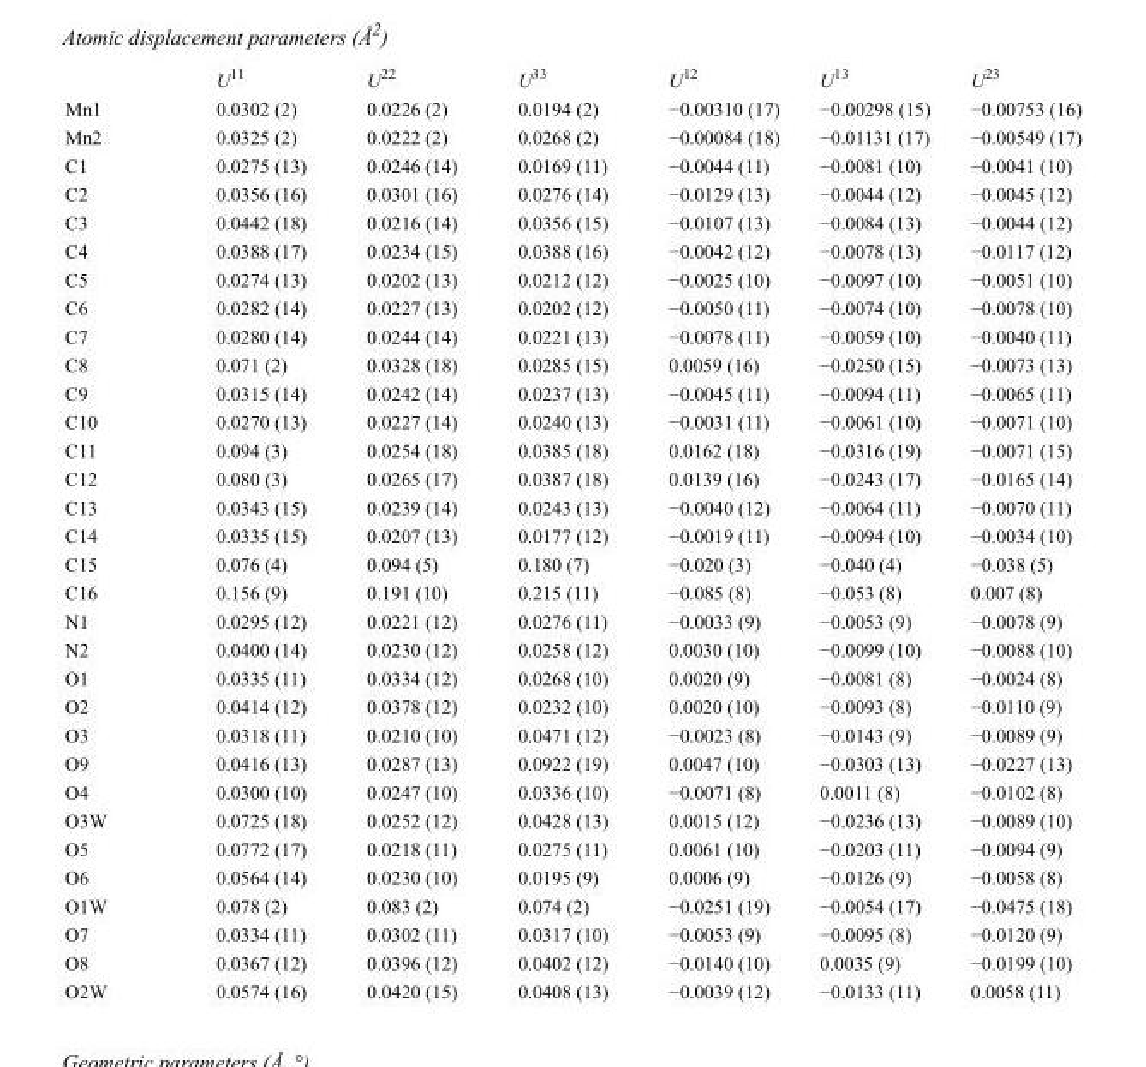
<table><thead><tr><td></td><td>U<sup>11</sup></td><td>U<sup>22</sup></td><td>U<sup>33</sup></td><td>U<sup>12</sup></td><td>U<sup>13</sup></td><td>U<sup>23</sup></td></tr></thead><tbody><tr><td>Mn1</td><td>0.0302 (2)</td><td>0.0226 (2)</td><td>0.0194 (2)</td><td>−0.00310 (17)</td><td>−0.00298 (15)</td><td>−0.00753 (16)</td></tr><tr><td>Mn2</td><td>0.0325 (2)</td><td>0.0222 (2)</td><td>0.0268 (2)</td><td>−0.00084 (18)</td><td>−0.01131 (17)</td><td>−0.00549 (17)</td></tr><tr><td>C1</td><td>0.0275 (13)</td><td>0.0246 (14)</td><td>0.0169 (11)</td><td>−0.0044 (11)</td><td>−0.0081 (10)</td><td>−0.0041 (10)</td></tr><tr><td>C2</td><td>0.0356 (16)</td><td>0.0301 (16)</td><td>0.0276 (14)</td><td>−0.0129 (13)</td><td>−0.0044 (12)</td><td>−0.0045 (12)</td></tr><tr><td>C3</td><td>0.0442 (18)</td><td>0.0216 (14)</td><td>0.0356 (15)</td><td>−0.0107 (13)</td><td>−0.0084 (13)</td><td>−0.0044 (12)</td></tr><tr><td>C4</td><td>0.0388 (17)</td><td>0.0234 (15)</td><td>0.0388 (16)</td><td>−0.0042 (12)</td><td>−0.0078 (13)</td><td>−0.0117 (12)</td></tr><tr><td>C5</td><td>0.0274 (13)</td><td>0.0202 (13)</td><td>0.0212 (12)</td><td>−0.0025 (10)</td><td>−0.0097 (10)</td><td>−0.0051 (10)</td></tr><tr><td>C6</td><td>0.0282 (14)</td><td>0.0227 (13)</td><td>0.0202 (12)</td><td>−0.0050 (11)</td><td>−0.0074 (10)</td><td>−0.0078 (10)</td></tr><tr><td>C7</td><td>0.0280 (14)</td><td>0.0244 (14)</td><td>0.0221 (13)</td><td>−0.0078 (11)</td><td>−0.0059 (10)</td><td>−0.0040 (11)</td></tr><tr><td>C8</td><td>0.071 (2)</td><td>0.0328 (18)</td><td>0.0285 (15)</td><td>0.0059 (16)</td><td>−0.0250 (15)</td><td>−0.0073 (13)</td></tr><tr><td>C9</td><td>0.0315 (14)</td><td>0.0242 (14)</td><td>0.0237 (13)</td><td>−0.0045 (11)</td><td>−0.0094 (11)</td><td>−0.0065 (11)</td></tr><tr><td>C10</td><td>0.0270 (13)</td><td>0.0227 (14)</td><td>0.0240 (13)</td><td>−0.0031 (11)</td><td>−0.0061 (10)</td><td>−0.0071 (10)</td></tr><tr><td>C11</td><td>0.094 (3)</td><td>0.0254 (18)</td><td>0.0385 (18)</td><td>0.0162 (18)</td><td>−0.0316 (19)</td><td>−0.0071 (15)</td></tr><tr><td>C12</td><td>0.080 (3)</td><td>0.0265 (17)</td><td>0.0387 (18)</td><td>0.0139 (16)</td><td>−0.0243 (17)</td><td>−0.0165 (14)</td></tr><tr><td>C13</td><td>0.0343 (15)</td><td>0.0239 (14)</td><td>0.0243 (13)</td><td>−0.0040 (12)</td><td>−0.0064 (11)</td><td>−0.0070 (11)</td></tr><tr><td>C14</td><td>0.0335 (15)</td><td>0.0207 (13)</td><td>0.0177 (12)</td><td>−0.0019 (11)</td><td>−0.0094 (10)</td><td>−0.0034 (10)</td></tr><tr><td>C15</td><td>0.076 (4)</td><td>0.094 (5)</td><td>0.180 (7)</td><td>−0.020 (3)</td><td>−0.040 (4)</td><td>−0.038 (5)</td></tr><tr><td>C16</td><td>0.156 (9)</td><td>0.191 (10)</td><td>0.215 (11)</td><td>−0.085 (8)</td><td>−0.053 (8)</td><td>0.007 (8)</td></tr><tr><td>N1</td><td>0.0295 (12)</td><td>0.0221 (12)</td><td>0.0276 (11)</td><td>−0.0033 (9)</td><td>−0.0053 (9)</td><td>−0.0078 (9)</td></tr><tr><td>N2</td><td>0.0400 (14)</td><td>0.0230 (12)</td><td>0.0258 (12)</td><td>0.0030 (10)</td><td>−0.0099 (10)</td><td>−0.0088 (10)</td></tr><tr><td>O1</td><td>0.0335 (11)</td><td>0.0334 (12)</td><td>0.0268 (10)</td><td>0.0020 (9)</td><td>−0.0081 (8)</td><td>−0.0024 (8)</td></tr><tr><td>O2</td><td>0.0414 (12)</td><td>0.0378 (12)</td><td>0.0232 (10)</td><td>0.0020 (10)</td><td>−0.0093 (8)</td><td>−0.0110 (9)</td></tr><tr><td>O3</td><td>0.0318 (11)</td><td>0.0210 (10)</td><td>0.0471 (12)</td><td>−0.0023 (8)</td><td>−0.0143 (9)</td><td>−0.0089 (9)</td></tr><tr><td>O9</td><td>0.0416 (13)</td><td>0.0287 (13)</td><td>0.0922 (19)</td><td>0.0047 (10)</td><td>−0.0303 (13)</td><td>−0.0227 (13)</td></tr><tr><td>O4</td><td>0.0300 (10)</td><td>0.0247 (10)</td><td>0.0336 (10)</td><td>−0.0071 (8)</td><td>0.0011 (8)</td><td>−0.0102 (8)</td></tr><tr><td>O3W</td><td>0.0725 (18)</td><td>0.0252 (12)</td><td>0.0428 (13)</td><td>0.0015 (12)</td><td>−0.0236 (13)</td><td>−0.0089 (10)</td></tr><tr><td>O5</td><td>0.0772 (17)</td><td>0.0218 (11)</td><td>0.0275 (11)</td><td>0.0061 (10)</td><td>−0.0203 (11)</td><td>−0.0094 (9)</td></tr><tr><td>O6</td><td>0.0564 (14)</td><td>0.0230 (10)</td><td>0.0195 (9)</td><td>0.0006 (9)</td><td>−0.0126 (9)</td><td>−0.0058 (8)</td></tr><tr><td>O1W</td><td>0.078 (2)</td><td>0.083 (2)</td><td>0.074 (2)</td><td>−0.0251 (19)</td><td>−0.0054 (17)</td><td>−0.0475 (18)</td></tr><tr><td>O7</td><td>0.0334 (11)</td><td>0.0302 (11)</td><td>0.0317 (10)</td><td>−0.0053 (9)</td><td>−0.0095 (8)</td><td>−0.0120 (9)</td></tr><tr><td>O8</td><td>0.0367 (12)</td><td>0.0396 (12)</td><td>0.0402 (12)</td><td>−0.0140 (10)</td><td>0.0035 (9)</td><td>−0.0199 (10)</td></tr><tr><td>O2W</td><td>0.0574 (16)</td><td>0.0420 (15)</td><td>0.0408 (13)</td><td>−0.0039 (12)</td><td>−0.0133 (11)</td><td>0.0058 (11)</td></tr></tbody></table>